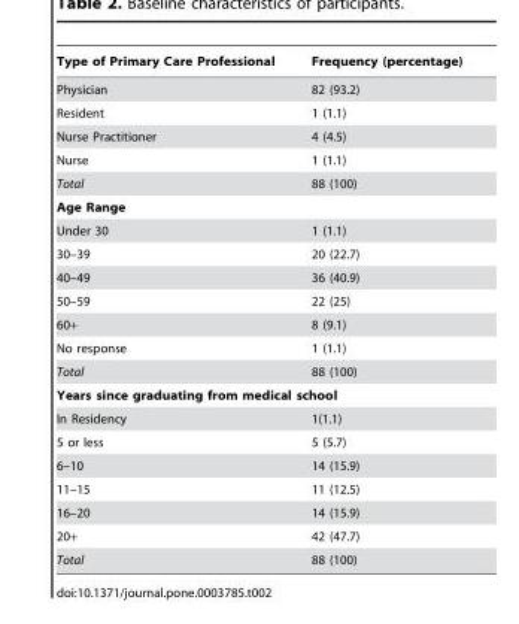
<table><thead><tr><td>Type of Primary Care Professional</td><td>Frequency (percentage)</td></tr></thead><tbody><tr><td>Physician</td><td>82 (93.2)</td></tr><tr><td>Resident</td><td>1 (1.1)</td></tr><tr><td>Nurse Practitioner</td><td>4 (4.5)</td></tr><tr><td>Nurse</td><td>1 (1.1)</td></tr><tr><td>Total</td><td>88 (100)</td></tr><tr><td colspan="2">Age Range</td></tr><tr><td>Under 30</td><td>1 (1.1)</td></tr><tr><td>30–39</td><td>20 (22.7)</td></tr><tr><td>40–49</td><td>36 (40.9)</td></tr><tr><td>50–59</td><td>22 (25)</td></tr><tr><td>60+</td><td>8 (9.1)</td></tr><tr><td>No response</td><td>1 (1.1)</td></tr><tr><td>Total</td><td>88 (100)</td></tr><tr><td colspan="2">Years since graduating from medical school</td></tr><tr><td>In Residency</td><td>1(1.1)</td></tr><tr><td>5 or less</td><td>5 (5.7)</td></tr><tr><td>6–10</td><td>14 (15.9)</td></tr><tr><td>11–15</td><td>11 (12.5)</td></tr><tr><td>16–20</td><td>14 (15.9)</td></tr><tr><td>20+</td><td>42 (47.7)</td></tr><tr><td>Total</td><td>88 (100)</td></tr></tbody></table>